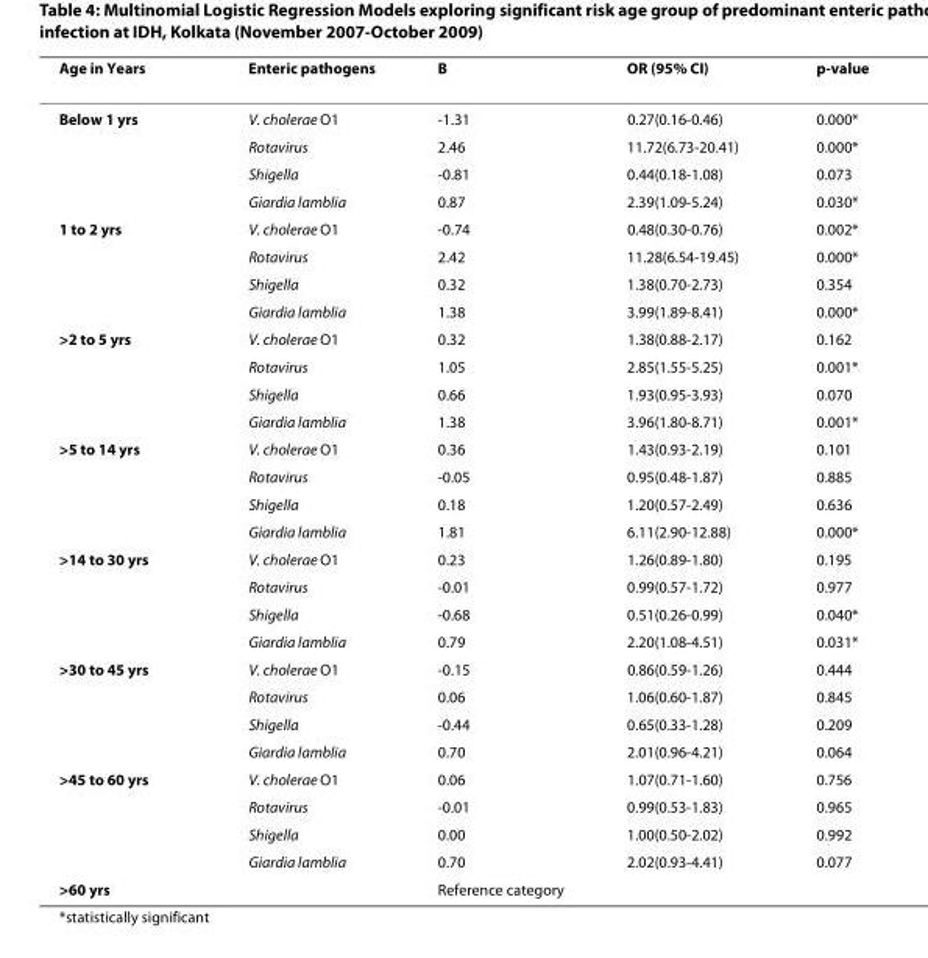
<table><thead><tr><td>Age in Years</td><td>Enteric pathogens</td><td>B</td><td>OR (95% CI)</td><td>p-value</td></tr></thead><tbody><tr><td rowspan="4">Below 1 yrs</td><td>V. cholerae O1</td><td>-1.31</td><td>0.27(0.16-0.46)</td><td>0.000*</td></tr><tr><td>Rotavirus</td><td>2.46</td><td>11.72(6.73-20.41)</td><td>0.000*</td></tr><tr><td>Shigella</td><td>-0.81</td><td>0.44(0.18-1.08)</td><td>0.073</td></tr><tr><td>Giardia lamblia</td><td>0.87</td><td>2.39(1.09-5.24)</td><td>0.030*</td></tr><tr><td rowspan="4">1 to 2 yrs</td><td>V. cholerae O1</td><td>-0.74</td><td>0.48(0.30-0.76)</td><td>0.002*</td></tr><tr><td>Rotavirus</td><td>2.42</td><td>11.28(6.54-19.45)</td><td>0.000*</td></tr><tr><td>Shigella</td><td>0.32</td><td>1.38(0.70-2.73)</td><td>0.354</td></tr><tr><td>Giardia lamblia</td><td>1.38</td><td>3.99(1.89-8.41)</td><td>0.000*</td></tr><tr><td rowspan="4">&gt;2 to 5 yrs</td><td>V. cholerae O1</td><td>0.32</td><td>1.38(0.88-2.17)</td><td>0.162</td></tr><tr><td>Rotavirus</td><td>1.05</td><td>2.85(1.55-5.25)</td><td>0.001*</td></tr><tr><td>Shigella</td><td>0.66</td><td>1.93(0.95-3.93)</td><td>0.070</td></tr><tr><td>Giardia lamblia</td><td>1.38</td><td>3.96(1.80-8.71)</td><td>0.001*</td></tr><tr><td rowspan="4">&gt;5 to 14 yrs</td><td>V. cholerae O1</td><td>0.36</td><td>1.43(0.93-2.19)</td><td>0.101</td></tr><tr><td>Rotavirus</td><td>-0.05</td><td>0.95(0.48-1.87)</td><td>0.885</td></tr><tr><td>Shigella</td><td>0.18</td><td>1.20(0.57-2.49)</td><td>0.636</td></tr><tr><td>Giardia lamblia</td><td>1.81</td><td>6.11(2.90-12.88)</td><td>0.000*</td></tr><tr><td rowspan="4">&gt;14 to 30 yrs</td><td>V. cholerae O1</td><td>0.23</td><td>1.26(0.89-1.80)</td><td>0.195</td></tr><tr><td>Rotavirus</td><td>-0.01</td><td>0.99(0.57-1.72)</td><td>0.977</td></tr><tr><td>Shigella</td><td>-0.68</td><td>0.51(0.26-0.99)</td><td>0.040*</td></tr><tr><td>Giardia lamblia</td><td>0.79</td><td>2.20(1.08-4.51)</td><td>0.031*</td></tr><tr><td rowspan="4">&gt;30 to 45 yrs</td><td>V. cholerae O1</td><td>-0.15</td><td>0.86(0.59-1.26)</td><td>0.444</td></tr><tr><td>Rotavirus</td><td>0.06</td><td>1.06(0.60-1.87)</td><td>0.845</td></tr><tr><td>Shigella</td><td>-0.44</td><td>0.65(0.33-1.28)</td><td>0.209</td></tr><tr><td>Giardia lamblia</td><td>0.70</td><td>2.01(0.96-4.21)</td><td>0.064</td></tr><tr><td rowspan="4">&gt;45 to 60 yrs</td><td>V. cholerae O1</td><td>0.06</td><td>1.07(0.71-1.60)</td><td>0.756</td></tr><tr><td>Rotavirus</td><td>-0.01</td><td>0.99(0.53-1.83)</td><td>0.965</td></tr><tr><td>Shigella</td><td>0.00</td><td>1.00(0.50-2.02)</td><td>0.992</td></tr><tr><td>Giardia lamblia</td><td>0.70</td><td>2.02(0.93-4.41)</td><td>0.077</td></tr><tr><td>&gt;60 yrs</td><td></td><td colspan="3">Reference category</td></tr></tbody></table>